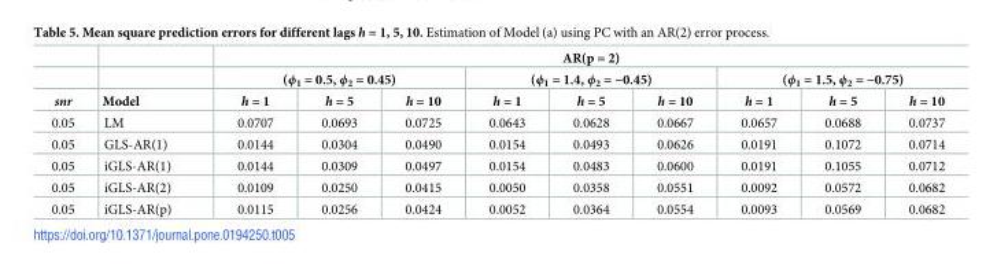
<table><thead><tr><td rowspan="3">snr</td><td rowspan="3">Model</td><td colspan="9">AR(p = 2)</td></tr><tr><td colspan="3">(ϕ<sub>1</sub> = 0.5, ϕ<sub>2</sub> = 0.45)</td><td colspan="3">(ϕ<sub>1</sub> = 1.4, ϕ<sub>2</sub> = −0.45)</td><td colspan="3">(ϕ<sub>1</sub> = 1.5, ϕ<sub>2</sub> = −0.75)</td></tr><tr><td>h = 1</td><td>h = 5</td><td>h = 10</td><td>h = 1</td><td>h = 5</td><td>h = 10</td><td>h = 1</td><td>h = 5</td><td>h = 10</td></tr></thead><tbody><tr><td>0.05</td><td>LM</td><td>0.0707</td><td>0.0693</td><td>0.0725</td><td>0.0643</td><td>0.0628</td><td>0.0667</td><td>0.0657</td><td>0.0688</td><td>0.0737</td></tr><tr><td>0.05</td><td>GLS-AR(1)</td><td>0.0144</td><td>0.0304</td><td>0.0490</td><td>0.0154</td><td>0.0493</td><td>0.0626</td><td>0.0191</td><td>0.1072</td><td>0.0714</td></tr><tr><td>0.05</td><td>iGLS-AR(1)</td><td>0.0144</td><td>0.0309</td><td>0.0497</td><td>0.0154</td><td>0.0483</td><td>0.0600</td><td>0.0191</td><td>0.1055</td><td>0.0712</td></tr><tr><td>0.05</td><td>iGLS-AR(2)</td><td>0.0109</td><td>0.0250</td><td>0.0415</td><td>0.0050</td><td>0.0358</td><td>0.0551</td><td>0.0092</td><td>0.0572</td><td>0.0682</td></tr><tr><td>0.05</td><td>iGLS-AR(p)</td><td>0.0115</td><td>0.0256</td><td>0.0424</td><td>0.0052</td><td>0.0364</td><td>0.0554</td><td>0.0093</td><td>0.0569</td><td>0.0682</td></tr></tbody></table>